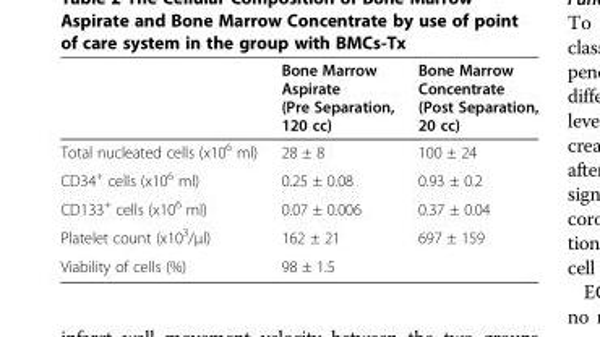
<table><thead><tr><td></td><td>Bone Marrow Aspirate (Pre Separation, 120 cc)</td><td>Bone Marrow Concentrate (Post Separation, 20 cc)</td></tr></thead><tbody><tr><td>Total nucleated cells (x10<sup>6</sup> ml)</td><td>28 ± 8</td><td>100 ± 24</td></tr><tr><td>CD34<sup>+</sup> cells (x10<sup>6</sup> ml)</td><td>0.25 ± 0.08</td><td>0.93 ± 0.2</td></tr><tr><td>CD133<sup>+</sup> cells (x10<sup>6</sup> ml)</td><td>0.07 ± 0.006</td><td>0.37 ± 0.04</td></tr><tr><td>Platelet count (x10<sup>3</sup>/μl)</td><td>162 ± 21</td><td>697 ± 159</td></tr><tr><td>Viability of cells (%)</td><td colspan="2">98 ± 1.5</td></tr></tbody></table>